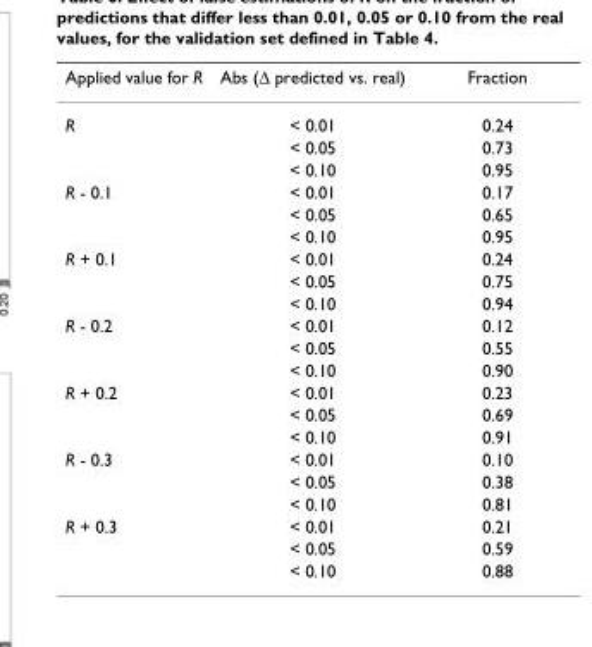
<table><thead><tr><td>Applied value for R</td><td>Abs (∆ predicted vs. real)</td><td>Fraction</td></tr></thead><tbody><tr><td rowspan="3">R</td><td>&lt; 0.01</td><td>0.24</td></tr><tr><td>&lt; 0.05</td><td>0.73</td></tr><tr><td>&lt; 0.10</td><td>0.95</td></tr><tr><td rowspan="3">R - 0.1</td><td>&lt; 0.01</td><td>0.17</td></tr><tr><td>&lt; 0.05</td><td>0.65</td></tr><tr><td>&lt; 0.10</td><td>0.95</td></tr><tr><td rowspan="3">R + 0.1</td><td>&lt; 0.01</td><td>0.24</td></tr><tr><td>&lt; 0.05</td><td>0.75</td></tr><tr><td>&lt; 0.10</td><td>0.94</td></tr><tr><td rowspan="3">R - 0.2</td><td>&lt; 0.01</td><td>0.12</td></tr><tr><td>&lt; 0.05</td><td>0.55</td></tr><tr><td>&lt; 0.10</td><td>0.90</td></tr><tr><td rowspan="3">R + 0.2</td><td>&lt; 0.01</td><td>0.23</td></tr><tr><td>&lt; 0.05</td><td>0.69</td></tr><tr><td>&lt; 0.10</td><td>0.91</td></tr><tr><td rowspan="3">R - 0.3</td><td>&lt; 0.01</td><td>0.10</td></tr><tr><td>&lt; 0.05</td><td>0.38</td></tr><tr><td>&lt; 0.10</td><td>0.81</td></tr><tr><td rowspan="3">R + 0.3</td><td>&lt; 0.01</td><td>0.21</td></tr><tr><td>&lt; 0.05</td><td>0.59</td></tr><tr><td>&lt; 0.10</td><td>0.88</td></tr></tbody></table>